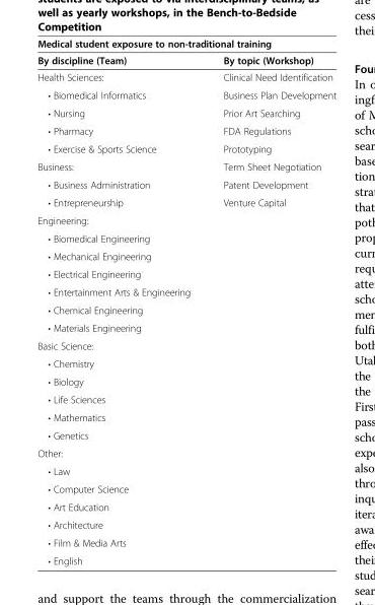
<table><thead><tr><td colspan="2">Medical student exposure to non-traditional training</td></tr><tr><td>By discipline (Team)</td><td>By topic (Workshop)</td></tr></thead><tbody><tr><td>Health Sciences:</td><td>Clinical Need Identification</td></tr><tr><td>• Biomedical Informatics</td><td>Business Plan Development</td></tr><tr><td>• Nursing</td><td>Prior Art Searching</td></tr><tr><td>• Pharmacy</td><td>FDA Regulations</td></tr><tr><td>• Exercise &amp; Sports Science</td><td>Prototyping</td></tr><tr><td>Business:</td><td>Term Sheet Negotiation</td></tr><tr><td>• Business Administration</td><td>Patent Development</td></tr><tr><td>• Entrepreneurship</td><td rowspan="21">Venture Capital</td></tr><tr><td>Engineering:</td></tr><tr><td>• Biomedical Engineering</td></tr><tr><td>• Mechanical Engineering</td></tr><tr><td>• Electrical Engineering</td></tr><tr><td>• Entertainment Arts &amp; Engineering</td></tr><tr><td>• Chemical Engineering</td></tr><tr><td>• Materials Engineering</td></tr><tr><td>Basic Science:</td></tr><tr><td>• Chemistry</td></tr><tr><td>• Biology</td></tr><tr><td>• Life Sciences</td></tr><tr><td>• Mathematics</td></tr><tr><td>• Genetics</td></tr><tr><td>Other:</td></tr><tr><td>• Law</td></tr><tr><td>• Computer Science</td></tr><tr><td>• Art Education</td></tr><tr><td>• Architecture</td></tr><tr><td>• Film &amp; Media Arts</td></tr><tr><td>• English</td></tr></tbody></table>